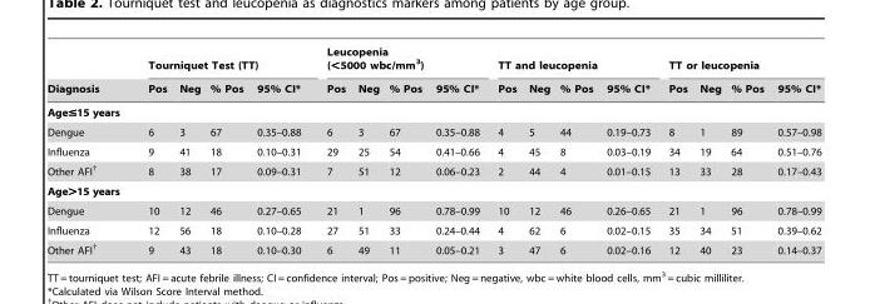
<table><thead><tr><td rowspan="2">Diagnosis</td><td colspan="4">Tourniquet Test (TT)</td><td colspan="4">Leucopenia (&lt;5000 wbc/mm<sup>3</sup>)</td><td colspan="4">TT and leucopenia</td><td colspan="4">TT or leucopenia</td></tr><tr><td>Pos</td><td>Neg</td><td>% Pos</td><td>95% CI*</td><td>Pos</td><td>Neg</td><td>% Pos</td><td>95% CI*</td><td>Pos</td><td>Neg</td><td>% Pos</td><td>95% CI*</td><td>Pos</td><td>Neg</td><td>% Pos</td><td>95% CI*</td></tr></thead><tbody><tr><td colspan="17">Age≤15 years</td></tr><tr><td>Dengue</td><td>6</td><td>3</td><td>67</td><td>0.35–0.88</td><td>6</td><td>3</td><td>67</td><td>0.35–0.88</td><td>4</td><td>5</td><td>44</td><td>0.19–0.73</td><td>8</td><td>1</td><td>89</td><td>0.57–0.98</td></tr><tr><td>Influenza</td><td>9</td><td>41</td><td>18</td><td>0.10–0.31</td><td>29</td><td>25</td><td>54</td><td>0.41–0.66</td><td>4</td><td>45</td><td>8</td><td>0.03–0.19</td><td>34</td><td>19</td><td>64</td><td>0.51–0.76</td></tr><tr><td>Other AFI†</td><td>8</td><td>38</td><td>17</td><td>0.09–0.31</td><td>7</td><td>51</td><td>12</td><td>0.06–0.23</td><td>2</td><td>44</td><td>4</td><td>0.01–0.15</td><td>13</td><td>33</td><td>28</td><td>0.17–0.43</td></tr><tr><td colspan="17">Age&gt;15 years</td></tr><tr><td>Dengue</td><td>10</td><td>12</td><td>46</td><td>0.27–0.65</td><td>21</td><td>1</td><td>96</td><td>0.78–0.99</td><td>10</td><td>12</td><td>46</td><td>0.26–0.65</td><td>21</td><td>1</td><td>96</td><td>0.78–0.99</td></tr><tr><td>Influenza</td><td>12</td><td>56</td><td>18</td><td>0.10–0.28</td><td>27</td><td>51</td><td>33</td><td>0.24–0.44</td><td>4</td><td>62</td><td>6</td><td>0.02–0.15</td><td>35</td><td>34</td><td>51</td><td>0.39–0.62</td></tr><tr><td>Other AFI†</td><td>9</td><td>43</td><td>18</td><td>0.10–0.30</td><td>6</td><td>49</td><td>11</td><td>0.05–0.21</td><td>3</td><td>47</td><td>6</td><td>0.02–0.16</td><td>12</td><td>40</td><td>23</td><td>0.14–0.37</td></tr></tbody></table>